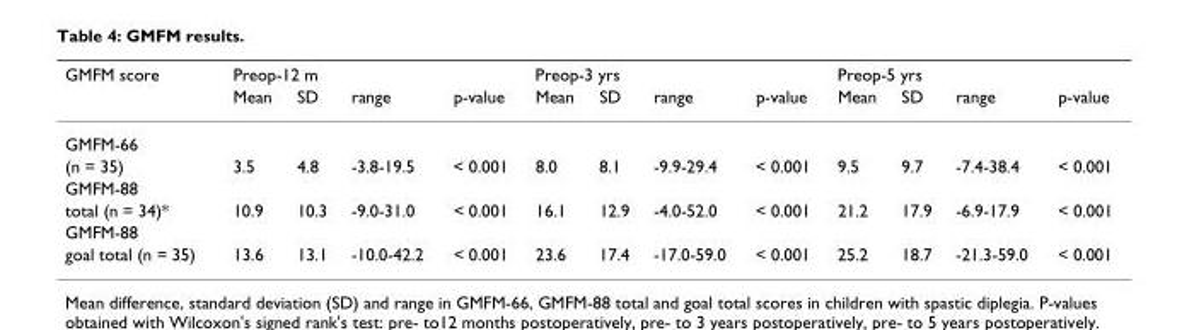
<table><thead><tr><td rowspan="2">GMFM score</td><td colspan="3">Preop-12 m</td><td rowspan="2">p-value</td><td colspan="3">Preop-3 yrs</td><td rowspan="2">p-value</td><td colspan="3">Preop-5 yrs</td><td rowspan="2">p-value</td></tr><tr><td>Mean</td><td>SD</td><td>range</td><td>Mean</td><td>SD</td><td>range</td><td>Mean</td><td>SD</td><td>range</td></tr></thead><tbody><tr><td colspan="13">GMFM-66</td></tr><tr><td>(n = 35)</td><td>3.5</td><td>4.8</td><td>-3.8-19.5</td><td>&lt; 0.001</td><td>8.0</td><td>8.1</td><td>-9.9-29.4</td><td>&lt; 0.001</td><td>9.5</td><td>9.7</td><td>-7.4-38.4</td><td>&lt; 0.001</td></tr><tr><td colspan="13">GMFM-88</td></tr><tr><td>total (n = 34)*</td><td>10.9</td><td>10.3</td><td>-9.0-31.0</td><td>&lt; 0.001</td><td>16.1</td><td>12.9</td><td>-4.0-52.0</td><td>&lt; 0.001</td><td>21.2</td><td>17.9</td><td>-6.9-17.9</td><td>&lt; 0.001</td></tr><tr><td colspan="13">GMFM-88</td></tr><tr><td>goal total (n = 35)</td><td>13.6</td><td>13.1</td><td>-10.0-42.2</td><td>&lt; 0.001</td><td>23.6</td><td>17.4</td><td>-17.0-59.0</td><td>&lt; 0.001</td><td>25.2</td><td>18.7</td><td>-21.3-59.0</td><td>&lt; 0.001</td></tr></tbody></table>